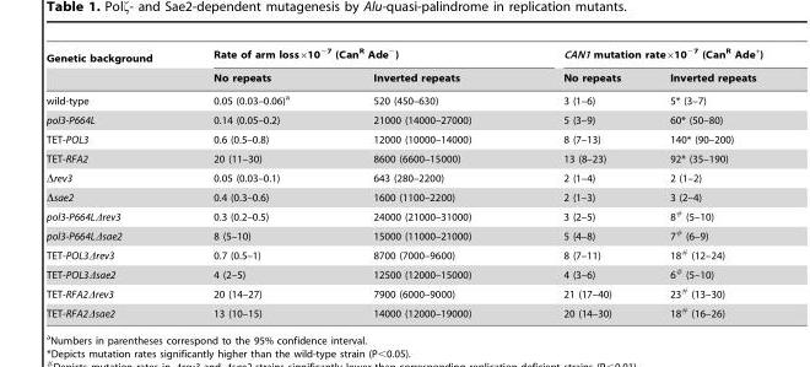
<table><thead><tr><td rowspan="2">Genetic background</td><td colspan="2">Rate of arm loss×10<sup>−7</sup> (Can<sup>R</sup> Ade<sup>−</sup>)</td><td colspan="2">CAN1 mutation rate×10<sup>−7</sup> (Can<sup>R</sup> Ade<sup>+</sup>)</td></tr><tr><td>No repeats</td><td>Inverted repeats</td><td>No repeats</td><td>Inverted repeats</td></tr></thead><tbody><tr><td>wild-type</td><td>0.05 (0.03–0.06)<sup>a</sup></td><td>520 (450–630)</td><td>3 (1–6)</td><td>5* (3–7)</td></tr><tr><td>pol3-P664L</td><td>0.14 (0.05–0.2)</td><td>21000 (14000–27000)</td><td>5 (3–9)</td><td>60* (50–80)</td></tr><tr><td>TET-POL3</td><td>0.6 (0.5–0.8)</td><td>12000 (10000–14000)</td><td>8 (7–13)</td><td>140* (90–200)</td></tr><tr><td>TET-RFA2</td><td>20 (11–30)</td><td>8600 (6600–15000)</td><td>13 (8–23)</td><td>92* (35–190)</td></tr><tr><td>Δrev3</td><td>0.05 (0.03–0.1)</td><td>643 (280–2200)</td><td>2 (1–4)</td><td>2 (1–2)</td></tr><tr><td>Δsae2</td><td>0.4 (0.3–0.6)</td><td>1600 (1100–2200)</td><td>2 (1–3)</td><td>3 (2–4)</td></tr><tr><td>pol3-P664LΔrev3</td><td>0.3 (0.2–0.5)</td><td>24000 (21000–31000)</td><td>3 (2–5)</td><td>8# (5–10)</td></tr><tr><td>pol3-P664LΔsae2</td><td>8 (5–10)</td><td>15000 (11000–21000)</td><td>5 (4–8)</td><td>7# (6–9)</td></tr><tr><td>TET-POL3Δrev3</td><td>0.7 (0.5–1)</td><td>8700 (7000–9600)</td><td>8 (7–11)</td><td>18# (12–24)</td></tr><tr><td>TET-POL3Δsae2</td><td>4 (2–5)</td><td>12500 (12000–15000)</td><td>4 (3–6)</td><td>6# (5–10)</td></tr><tr><td>TET-RFA2Δrev3</td><td>20 (14–27)</td><td>7900 (6000–9000)</td><td>21 (17–40)</td><td>23# (13–30)</td></tr><tr><td>TET-RFA2Δsae2</td><td>13 (10–15)</td><td>14000 (12000–19000)</td><td>20 (14–30)</td><td>18# (16–26)</td></tr></tbody></table>